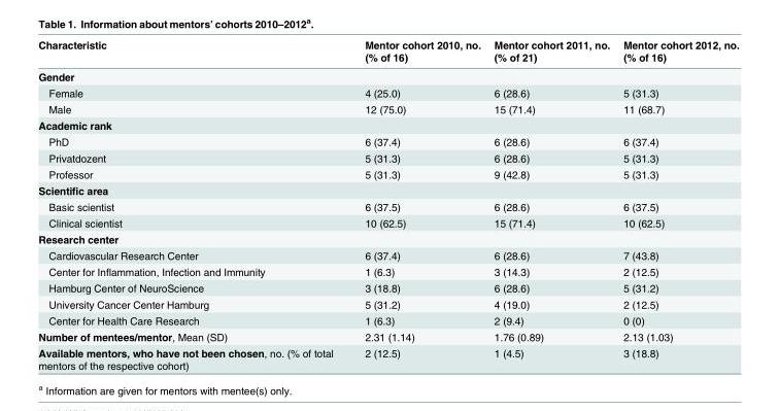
<table><thead><tr><td>Characteristic</td><td>Mentor cohort 2010, no. (% of 16)</td><td>Mentor cohort 2011, no. (% of 21)</td><td>Mentor cohort 2012, no. (% of 16)</td></tr></thead><tbody><tr><td colspan="4">Gender</td></tr><tr><td>Female</td><td>4 (25.0)</td><td>6 (28.6)</td><td>5 (31.3)</td></tr><tr><td>Male</td><td>12 (75.0)</td><td>15 (71.4)</td><td>11 (68.7)</td></tr><tr><td colspan="4">Academic rank</td></tr><tr><td>PhD</td><td>6 (37.4)</td><td>6 (28.6)</td><td>6 (37.4)</td></tr><tr><td>Privatdozent</td><td>5 (31.3)</td><td>6 (28.6)</td><td>5 (31.3)</td></tr><tr><td>Professor</td><td>5 (31.3)</td><td>9 (42.8)</td><td>5 (31.3)</td></tr><tr><td colspan="4">Scientific area</td></tr><tr><td>Basic scientist</td><td>6 (37.5)</td><td>6 (28.6)</td><td>6 (37.5)</td></tr><tr><td>Clinical scientist</td><td>10 (62.5)</td><td>15 (71.4)</td><td>10 (62.5)</td></tr><tr><td colspan="4">Research center</td></tr><tr><td>Cardiovascular Research Center</td><td>6 (37.4)</td><td>6 (28.6)</td><td>7 (43.8)</td></tr><tr><td>Center for Inflammation, Infection and Immunity</td><td>1 (6.3)</td><td>3 (14.3)</td><td>2 (12.5)</td></tr><tr><td>Hamburg Center of NeuroScience</td><td>3 (18.8)</td><td>6 (28.6)</td><td>5 (31.2)</td></tr><tr><td>University Cancer Center Hamburg</td><td>5 (31.2)</td><td>4 (19.0)</td><td>2 (12.5)</td></tr><tr><td>Center for Health Care Research</td><td>1 (6.3)</td><td>2 (9.4)</td><td>0 (0)</td></tr><tr><td>Number of mentees/mentor, Mean (SD)</td><td>2.31 (1.14)</td><td>1.76 (0.89)</td><td>2.13 (1.03)</td></tr><tr><td>Available mentors, who have not been chosen, no. (% of total mentors of the respective cohort)</td><td>2 (12.5)</td><td>1 (4.5)</td><td>3 (18.8)</td></tr></tbody></table>